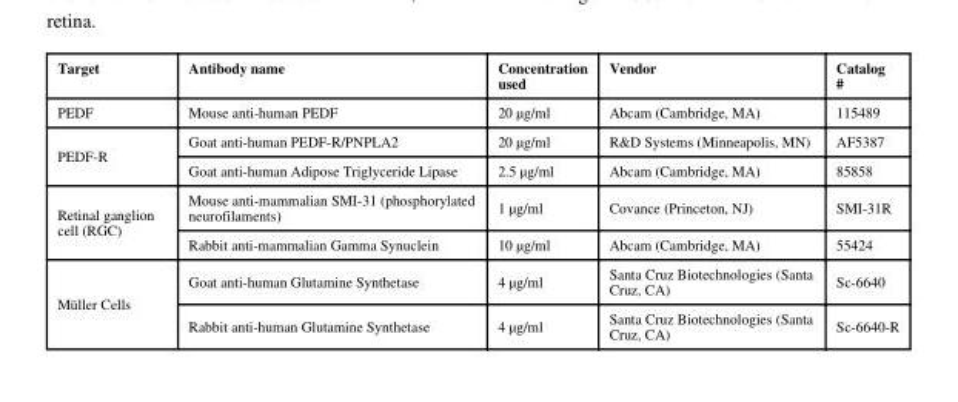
<table><thead><tr><td>Target</td><td>Antibody name</td><td>Concentration used</td><td>Vendor</td><td>Catalog #</td></tr></thead><tbody><tr><td>PEDF</td><td>Mouse anti-human PEDF</td><td>20 µg/ml</td><td>Abcam (Cambridge, MA)</td><td>115489</td></tr><tr><td rowspan="2">PEDF-R</td><td>Goat anti-human PEDF-R/PNPLA2</td><td>20 µg/ml</td><td>R&amp;D Systems (Minneapolis, MN)</td><td>AF5387</td></tr><tr><td>Goat anti-human Adipose Triglyceride Lipase</td><td>2.5 µg/ml</td><td>Abcam (Cambridge, MA)</td><td>85858</td></tr><tr><td rowspan="2">Retinal ganglion cell (RGC)</td><td>Mouse anti-mammalian SMI-31 (phosphorylated neurofilaments)</td><td>1 µg/ml</td><td>Covance (Princeton, NJ)</td><td>SMI-31R</td></tr><tr><td>Rabbit anti-mammalian Gamma Synuclein</td><td>10 µg/ml</td><td>Abcam (Cambridge, MA)</td><td>55424</td></tr><tr><td rowspan="2">Müller Cells</td><td>Goat anti-human Glutamine Synthetase</td><td>4 µg/ml</td><td>Santa Cruz Biotechnologies (Santa Cruz, CA)</td><td>Sc-6640</td></tr><tr><td>Rabbit anti-human Glutamine Synthetase</td><td>4 µg/ml</td><td>Santa Cruz Biotechnologies (Santa Cruz, CA)</td><td>Sc-6640-R</td></tr></tbody></table>